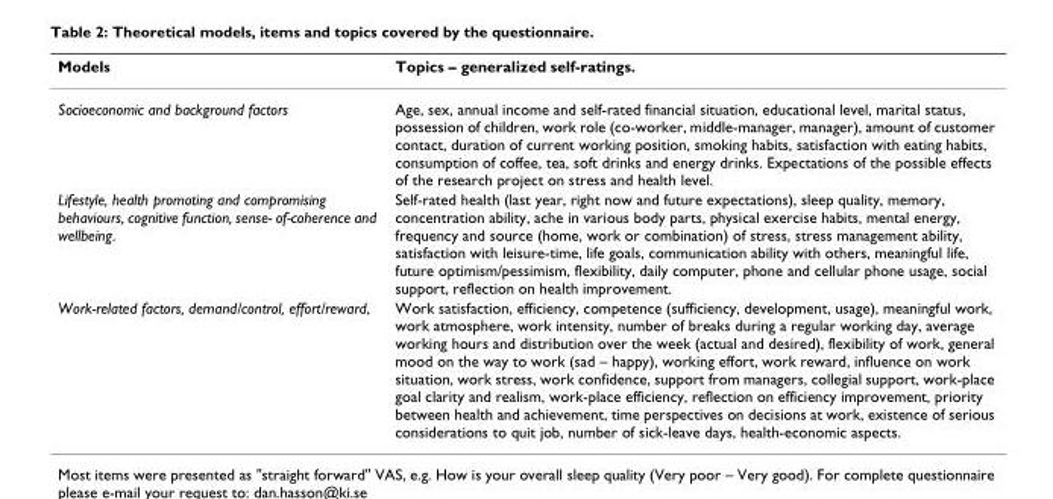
<table><thead><tr><td>Models</td><td>Topics – generalized self-ratings.</td></tr></thead><tbody><tr><td>Socioeconomic and background factors</td><td>Age, sex, annual income and self-rated financial situation, educational level, marital status, possession of children, work role (co-worker, middle-manager, manager), amount of customer contact, duration of current working position, smoking habits, satisfaction with eating habits, consumption of coffee, tea, soft drinks and energy drinks. Expectations of the possible effects of the research project on stress and health level.</td></tr><tr><td>Lifestyle, health promoting and compromising behaviours, cognitive function, sense- of-coherence and wellbeing.</td><td>Self-rated health (last year, right now and future expectations), sleep quality, memory, concentration ability, ache in various body parts, physical exercise habits, mental energy, frequency and source (home, work or combination) of stress, stress management ability, satisfaction with leisure-time, life goals, communication ability with others, meaningful life, future optimism/pessimism, flexibility, daily computer, phone and cellular phone usage, social support, reflection on health improvement.</td></tr><tr><td>Work-related factors, demand/control, effort/reward,</td><td>Work satisfaction, efficiency, competence (sufficiency, development, usage), meaningful work, work atmosphere, work intensity, number of breaks during a regular working day, average working hours and distribution over the week (actual and desired), flexibility of work, general mood on the way to work (sad – happy), working effort, work reward, influence on work situation, work stress, work confidence, support from managers, collegial support, work-place goal clarity and realism, work-place efficiency, reflection on efficiency improvement, priority between health and achievement, time perspectives on decisions at work, existence of serious considerations to quit job, number of sick-leave days, health-economic aspects.</td></tr></tbody></table>